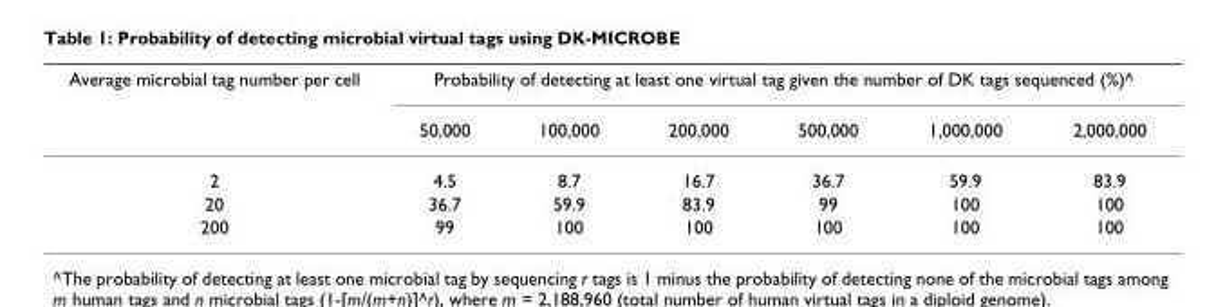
<table><thead><tr><td rowspan="2">Average microbial tag number per cell</td><td colspan="6">Probability of detecting at least one virtual tag given the number of DK tags sequenced (%)^</td></tr><tr><td>50,000</td><td>100,000</td><td>200,000</td><td>500,000</td><td>1,000,000</td><td>2,000,000</td></tr></thead><tbody><tr><td>2</td><td>4.5</td><td>8.7</td><td>16.7</td><td>36.7</td><td>59.9</td><td>83.9</td></tr><tr><td>20</td><td>36.7</td><td>59.9</td><td>83.9</td><td>99</td><td>100</td><td>100</td></tr><tr><td>200</td><td>99</td><td>100</td><td>100</td><td>100</td><td>100</td><td>100</td></tr></tbody></table>